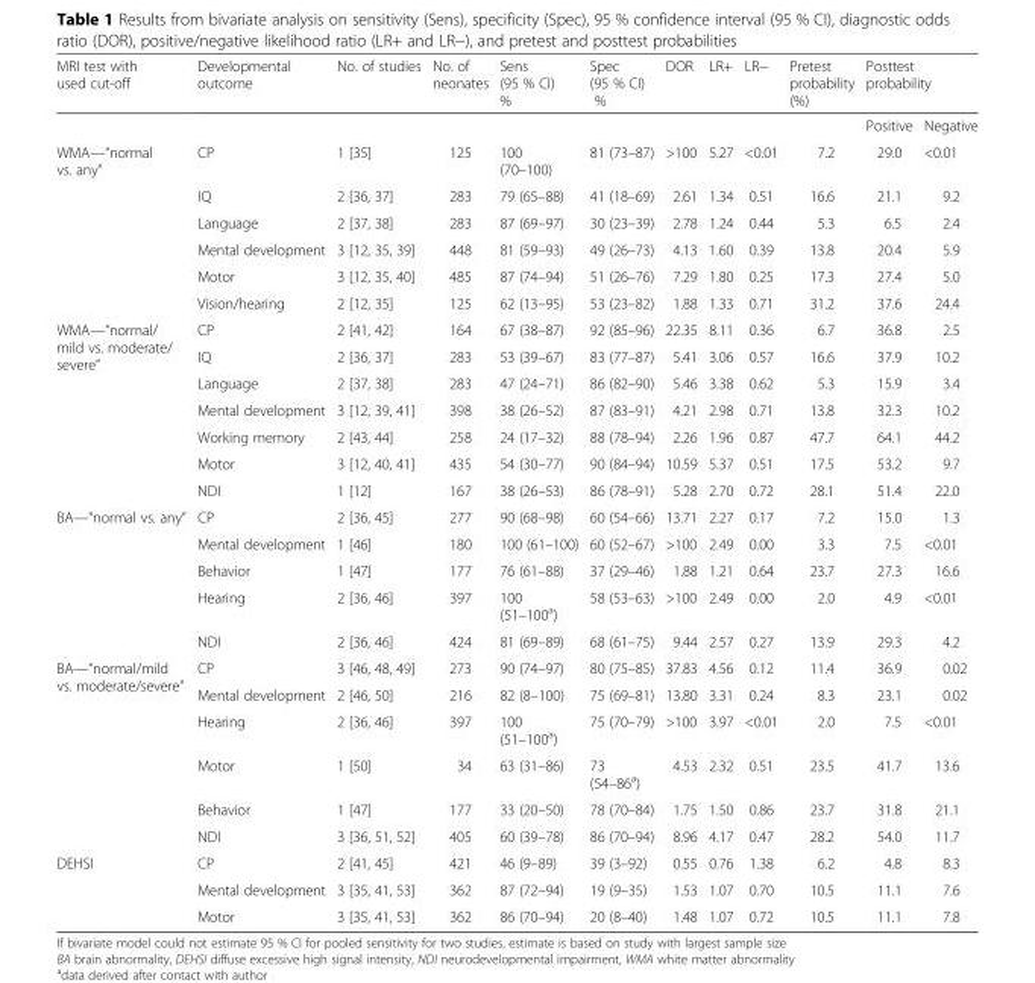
<table><thead><tr><td rowspan="2">MRI test with used cut-off</td><td rowspan="2">Developmental outcome</td><td rowspan="2">No. of studies</td><td rowspan="2">No. of neonates</td><td rowspan="2">Sens (95 % CI) %</td><td rowspan="2">Spec (95 % CI) %</td><td rowspan="2">DOR</td><td rowspan="2">LR+</td><td rowspan="2">LR−</td><td rowspan="2">Pretest probability (%)</td><td colspan="2">Posttest probability</td></tr><tr><td>Positive</td><td>Negative</td></tr></thead><tbody><tr><td rowspan="6">WMA—“normal vs. any”</td><td>CP</td><td>1 [35]</td><td>125</td><td>100 (70–100)</td><td>81 (73–87)</td><td>&gt;100</td><td>5.27</td><td>&lt;0.01</td><td>7.2</td><td>29.0</td><td>&lt;0.01</td></tr><tr><td>IQ</td><td>2 [36, 37]</td><td>283</td><td>79 (65–88)</td><td>41 (18–69)</td><td>2.61</td><td>1.34</td><td>0.51</td><td>16.6</td><td>21.1</td><td>9.2</td></tr><tr><td>Language</td><td>2 [37, 38]</td><td>283</td><td>87 (69–97)</td><td>30 (23–39)</td><td>2.78</td><td>1.24</td><td>0.44</td><td>5.3</td><td>6.5</td><td>2.4</td></tr><tr><td>Mental development</td><td>3 [12, 35, 39]</td><td>448</td><td>81 (59–93)</td><td>49 (26–73)</td><td>4.13</td><td>1.60</td><td>0.39</td><td>13.8</td><td>20.4</td><td>5.9</td></tr><tr><td>Motor</td><td>3 [12, 35, 40]</td><td>485</td><td>87 (74–94)</td><td>51 (26–76)</td><td>7.29</td><td>1.80</td><td>0.25</td><td>17.3</td><td>27.4</td><td>5.0</td></tr><tr><td>Vision/hearing</td><td>2 [12, 35]</td><td>125</td><td>62 (13–95)</td><td>53 (23–82)</td><td>1.88</td><td>1.33</td><td>0.71</td><td>31.2</td><td>37.6</td><td>24.4</td></tr><tr><td rowspan="7">WMA—“normal/ mild vs. moderate/ severe”</td><td>CP</td><td>2 [41, 42]</td><td>164</td><td>67 (38–87)</td><td>92 (85–96)</td><td>22.35</td><td>8.11</td><td>0.36</td><td>6.7</td><td>36.8</td><td>2.5</td></tr><tr><td>IQ</td><td>2 [36, 37]</td><td>283</td><td>53 (39–67)</td><td>83 (77–87)</td><td>5.41</td><td>3.06</td><td>0.57</td><td>16.6</td><td>37.9</td><td>10.2</td></tr><tr><td>Language</td><td>2 [37, 38]</td><td>283</td><td>47 (24–71)</td><td>86 (82–90)</td><td>5.46</td><td>3.38</td><td>0.62</td><td>5.3</td><td>15.9</td><td>3.4</td></tr><tr><td>Mental development</td><td>3 [12, 39, 41]</td><td>398</td><td>38 (26–52)</td><td>87 (83–91)</td><td>4.21</td><td>2.98</td><td>0.71</td><td>13.8</td><td>32.3</td><td>10.2</td></tr><tr><td>Working memory</td><td>2 [43, 44]</td><td>258</td><td>24 (17–32)</td><td>88 (78–94)</td><td>2.26</td><td>1.96</td><td>0.87</td><td>47.7</td><td>64.1</td><td>44.2</td></tr><tr><td>Motor</td><td>3 [12, 40, 41]</td><td>435</td><td>54 (30–77)</td><td>90 (84–94)</td><td>10.59</td><td>5.37</td><td>0.51</td><td>17.5</td><td>53.2</td><td>9.7</td></tr><tr><td>NDI</td><td>1 [12]</td><td>167</td><td>38 (26–53)</td><td>86 (78–91)</td><td>5.28</td><td>2.70</td><td>0.72</td><td>28.1</td><td>51.4</td><td>22.0</td></tr><tr><td rowspan="5">BA—“normal vs. any”</td><td>CP</td><td>2 [36, 45]</td><td>277</td><td>90 (68–98)</td><td>60 (54–66)</td><td>13.71</td><td>2.27</td><td>0.17</td><td>7.2</td><td>15.0</td><td>1.3</td></tr><tr><td>Mental development</td><td>1 [46]</td><td>180</td><td>100 (61–100)</td><td>60 (52–67)</td><td>&gt;100</td><td>2.49</td><td>0.00</td><td>3.3</td><td>7.5</td><td>&lt;0.01</td></tr><tr><td>Behavior</td><td>1 [47]</td><td>177</td><td>76 (61–88)</td><td>37 (29–46)</td><td>1.88</td><td>1.21</td><td>0.64</td><td>23.7</td><td>27.3</td><td>16.6</td></tr><tr><td>Hearing</td><td>2 [36, 46]</td><td>397</td><td>100 (51–100<sup>a</sup>)</td><td>58 (53–63)</td><td>&gt;100</td><td>2.49</td><td>0.00</td><td>2.0</td><td>4.9</td><td>&lt;0.01</td></tr><tr><td>NDI</td><td>2 [36, 46]</td><td>424</td><td>81 (69–89)</td><td>68 (61–75)</td><td>9.44</td><td>2.57</td><td>0.27</td><td>13.9</td><td>29.3</td><td>4.2</td></tr><tr><td rowspan="6">BA—“normal/mild vs. moderate/severe”</td><td>CP</td><td>3 [46, 48, 49]</td><td>273</td><td>90 (74–97)</td><td>80 (75–85)</td><td>37.83</td><td>4.56</td><td>0.12</td><td>11.4</td><td>36.9</td><td>0.02</td></tr><tr><td>Mental development</td><td>2 [46, 50]</td><td>216</td><td>82 (8–100)</td><td>75 (69–81)</td><td>13.80</td><td>3.31</td><td>0.24</td><td>8.3</td><td>23.1</td><td>0.02</td></tr><tr><td>Hearing</td><td>2 [36, 46]</td><td>397</td><td>100 (51–100<sup>a</sup>)</td><td>75 (70–79)</td><td>&gt;100</td><td>3.97</td><td>&lt;0.01</td><td>2.0</td><td>7.5</td><td>&lt;0.01</td></tr><tr><td>Motor</td><td>1 [50]</td><td>34</td><td>63 (31–86)</td><td>73 (54–86<sup>a</sup>)</td><td>4.53</td><td>2.32</td><td>0.51</td><td>23.5</td><td>41.7</td><td>13.6</td></tr><tr><td>Behavior</td><td>1 [47]</td><td>177</td><td>33 (20–50)</td><td>78 (70–84)</td><td>1.75</td><td>1.50</td><td>0.86</td><td>23.7</td><td>31.8</td><td>21.1</td></tr><tr><td>NDI</td><td>3 [36, 51, 52]</td><td>405</td><td>60 (39–78)</td><td>86 (70–94)</td><td>8.96</td><td>4.17</td><td>0.47</td><td>28.2</td><td>54.0</td><td>11.7</td></tr><tr><td rowspan="3">DEHSI</td><td>CP</td><td>2 [41, 45]</td><td>421</td><td>46 (9–89)</td><td>39 (3–92)</td><td>0.55</td><td>0.76</td><td>1.38</td><td>6.2</td><td>4.8</td><td>8.3</td></tr><tr><td>Mental development</td><td>3 [35, 41, 53]</td><td>362</td><td>87 (72–94)</td><td>19 (9–35)</td><td>1.53</td><td>1.07</td><td>0.70</td><td>10.5</td><td>11.1</td><td>7.6</td></tr><tr><td>Motor</td><td>3 [35, 41, 53]</td><td>362</td><td>86 (70–94)</td><td>20 (8–40)</td><td>1.48</td><td>1.07</td><td>0.72</td><td>10.5</td><td>11.1</td><td>7.8</td></tr></tbody></table>